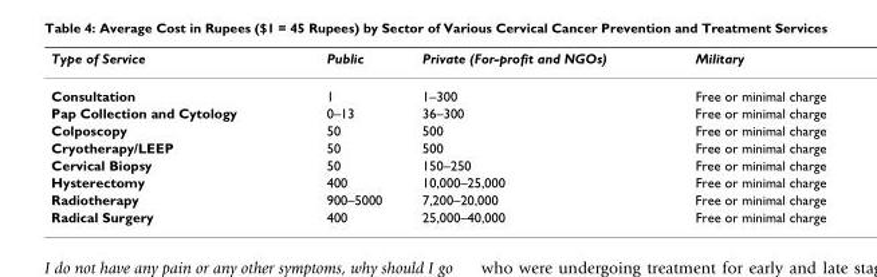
<table><thead><tr><td>Type of Service</td><td>Public</td><td>Private (For-profit and NGOs)</td><td>Military</td></tr></thead><tbody><tr><td>Consultation</td><td>1</td><td>1–300</td><td>Free or minimal charge</td></tr><tr><td>Pap Collection and Cytology</td><td>0–13</td><td>36–300</td><td>Free or minimal charge</td></tr><tr><td>Colposcopy</td><td>50</td><td>500</td><td>Free or minimal charge</td></tr><tr><td>Cryotherapy/LEEP</td><td>50</td><td>500</td><td>Free or minimal charge</td></tr><tr><td>Cervical Biopsy</td><td>50</td><td>150–250</td><td>Free or minimal charge</td></tr><tr><td>Hysterectomy</td><td>400</td><td>10,000–25,000</td><td>Free or minimal charge</td></tr><tr><td>Radiotherapy</td><td>900–5000</td><td>7,200–20,000</td><td>Free or minimal charge</td></tr><tr><td>Radical Surgery</td><td>400</td><td>25,000–40,000</td><td>Free or minimal charge</td></tr></tbody></table>